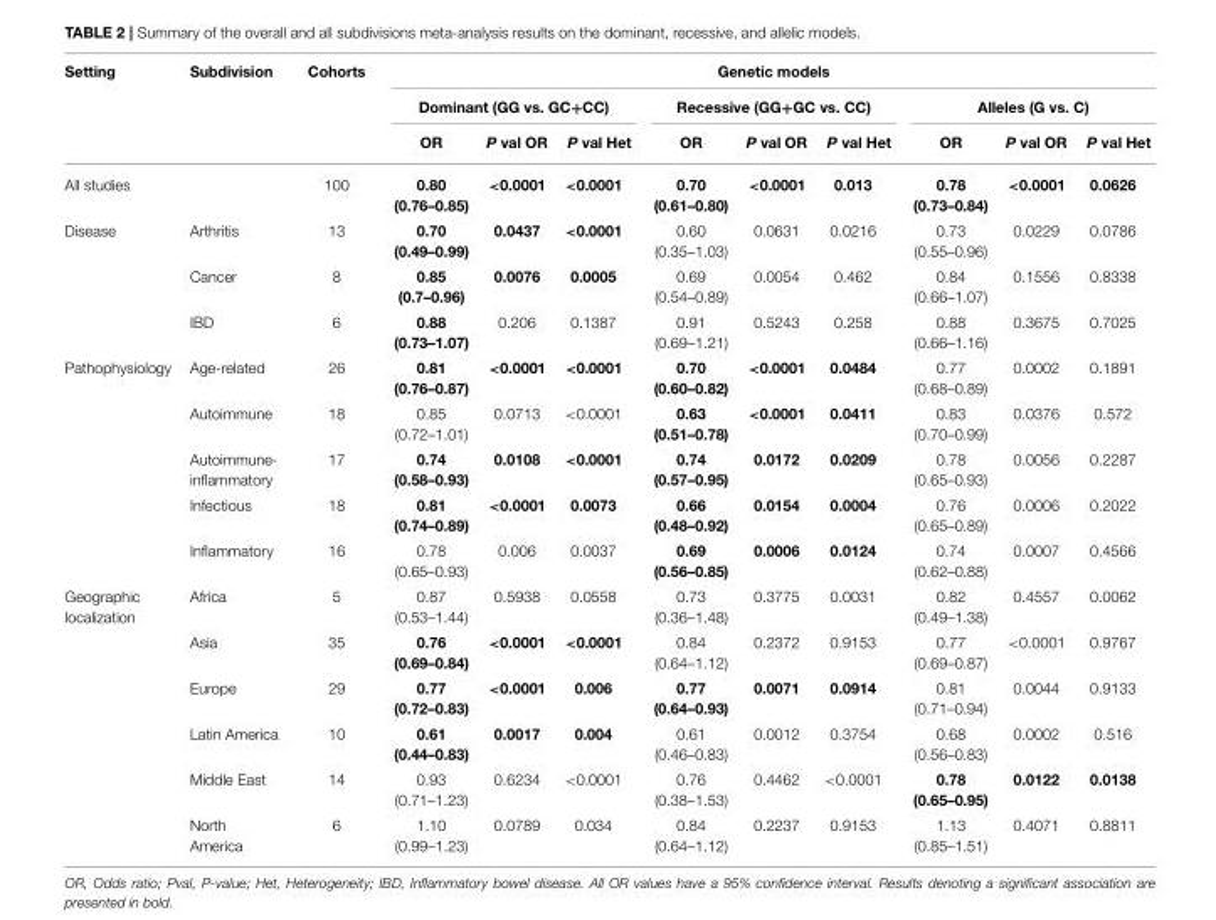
<table><thead><tr><td rowspan="3">Setting</td><td rowspan="3">Subdivision</td><td rowspan="3">Cohorts</td><td colspan="9">Genetic models</td></tr><tr><td colspan="3">Dominant (GG vs. GC+CC)</td><td colspan="3">Recessive (GG+GC vs. CC)</td><td colspan="3">Alleles (G vs. C)</td></tr><tr><td>OR</td><td>P val OR</td><td>P val Het</td><td>OR</td><td>P val OR</td><td>P val Het</td><td>OR</td><td>P val OR</td><td>P val Het</td></tr></thead><tbody><tr><td>All studies</td><td></td><td>100</td><td>0.80 (0.76–0.85)</td><td>&lt;0.0001</td><td>&lt;0.0001</td><td>0.70 (0.61–0.80)</td><td>&lt;0.0001</td><td>0.013</td><td>0.78 (0.73–0.84)</td><td>&lt;0.0001</td><td>0.0626</td></tr><tr><td rowspan="3">Disease</td><td>Arthritis</td><td>13</td><td>0.70 (0.49–0.99)</td><td>0.0437</td><td>&lt;0.0001</td><td>0.60 (0.35–1.03)</td><td>0.0631</td><td>0.0216</td><td>0.73 (0.55–0.96)</td><td>0.0229</td><td>0.0786</td></tr><tr><td>Cancer</td><td>8</td><td>0.85 (0.7–0.96)</td><td>0.0076</td><td>0.0005</td><td>0.69 (0.54–0.89)</td><td>0.0054</td><td>0.462</td><td>0.84 (0.66–1.07)</td><td>0.1556</td><td>0.8338</td></tr><tr><td>IBD</td><td>6</td><td>0.88 (0.73–1.07)</td><td>0.206</td><td>0.1387</td><td>0.91 (0.69–1.21)</td><td>0.5243</td><td>0.258</td><td>0.88 (0.66–1.16)</td><td>0.3675</td><td>0.7025</td></tr><tr><td rowspan="5">Pathophysiology</td><td>Age-related</td><td>26</td><td>0.81 (0.76–0.87)</td><td>&lt;0.0001</td><td>&lt;0.0001</td><td>0.70 (0.60–0.82)</td><td>&lt;0.0001</td><td>0.0484</td><td>0.77 (0.68–0.89)</td><td>0.0002</td><td>0.1891</td></tr><tr><td>Autoimmune</td><td>18</td><td>0.85 (0.72–1.01)</td><td>0.0713</td><td>&lt;0.0001</td><td>0.63 (0.51–0.78)</td><td>&lt;0.0001</td><td>0.0411</td><td>0.83 (0.70–0.99)</td><td>0.0376</td><td>0.572</td></tr><tr><td>Autoimmune- inflammatory</td><td>17</td><td>0.74 (0.58–0.93)</td><td>0.0108</td><td>&lt;0.0001</td><td>0.74 (0.57–0.95)</td><td>0.0172</td><td>0.0209</td><td>0.78 (0.65–0.93)</td><td>0.0056</td><td>0.2287</td></tr><tr><td>Infectious</td><td>18</td><td>0.81 (0.74–0.89)</td><td>&lt;0.0001</td><td>0.0073</td><td>0.66 (0.48–0.92)</td><td>0.0154</td><td>0.0004</td><td>0.76 (0.65–0.89)</td><td>0.0006</td><td>0.2022</td></tr><tr><td>Inflammatory</td><td>16</td><td>0.78 (0.65–0.93)</td><td>0.006</td><td>0.0037</td><td>0.69 (0.56–0.85)</td><td>0.0006</td><td>0.0124</td><td>0.74 (0.62–0.88)</td><td>0.0007</td><td>0.4566</td></tr><tr><td rowspan="6">Geographic localization</td><td>Africa</td><td>5</td><td>0.87 (0.53–1.44)</td><td>0.5938</td><td>0.0558</td><td>0.73 (0.36–1.48)</td><td>0.3775</td><td>0.0031</td><td>0.82 (0.49–1.38)</td><td>0.4557</td><td>0.0062</td></tr><tr><td>Asia</td><td>35</td><td>0.76 (0.69–0.84)</td><td>&lt;0.0001</td><td>&lt;0.0001</td><td>0.84 (0.64–1.12)</td><td>0.2372</td><td>0.9153</td><td>0.77 (0.69–0.87)</td><td>&lt;0.0001</td><td>0.9767</td></tr><tr><td>Europe</td><td>29</td><td>0.77 (0.72–0.83)</td><td>&lt;0.0001</td><td>0.006</td><td>0.77 (0.64–0.93)</td><td>0.0071</td><td>0.0914</td><td>0.81 (0.71–0.94)</td><td>0.0044</td><td>0.9133</td></tr><tr><td>Latin America</td><td>10</td><td>0.61 (0.44–0.83)</td><td>0.0017</td><td>0.004</td><td>0.61 (0.46–0.83)</td><td>0.0012</td><td>0.3754</td><td>0.68 (0.56–0.83)</td><td>0.0002</td><td>0.516</td></tr><tr><td>Middle East</td><td>14</td><td>0.93 (0.71–1.23)</td><td>0.6234</td><td>&lt;0.0001</td><td>0.76 (0.38–1.53)</td><td>0.4462</td><td>&lt;0.0001</td><td>0.78 (0.65–0.95)</td><td>0.0122</td><td>0.0138</td></tr><tr><td>North America</td><td>6</td><td>1.10 (0.99–1.23)</td><td>0.0789</td><td>0.034</td><td>0.84 (0.64–1.12)</td><td>0.2237</td><td>0.9153</td><td>1.13 (0.85–1.51)</td><td>0.4071</td><td>0.8811</td></tr></tbody></table>